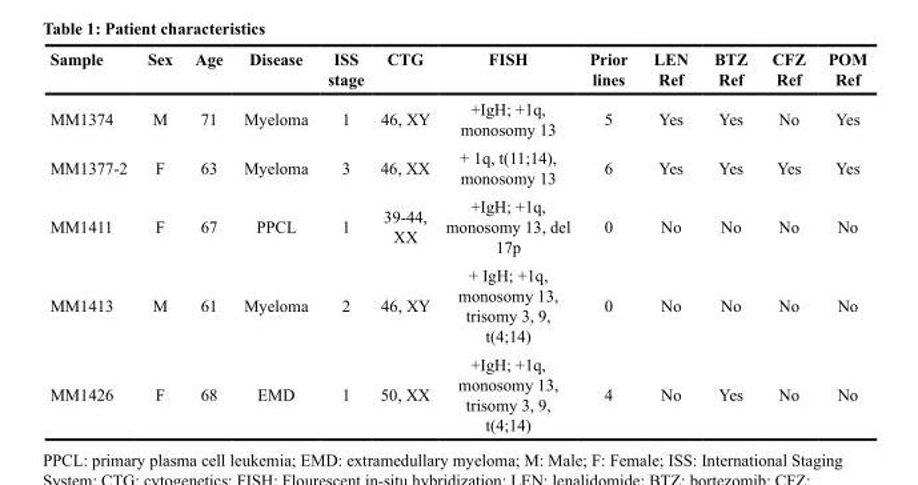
<table><thead><tr><td>Sample</td><td>Sex</td><td>Age</td><td>Disease</td><td>ISS stage</td><td>CTG</td><td>FISH</td><td>Prior lines</td><td>LEN Ref</td><td>BTZ Ref</td><td>CFZ Ref</td><td>POM Ref</td></tr></thead><tbody><tr><td>MM1374</td><td>M</td><td>71</td><td>Myeloma</td><td>1</td><td>46, XY</td><td>+IgH; +1q, monosomy 13</td><td>5</td><td>Yes</td><td>Yes</td><td>No</td><td>Yes</td></tr><tr><td>MM1377-2</td><td>F</td><td>63</td><td>Myeloma</td><td>3</td><td>46, XX</td><td>+ 1q, t(11;14), monosomy 13</td><td>6</td><td>Yes</td><td>Yes</td><td>Yes</td><td>Yes</td></tr><tr><td>MM1411</td><td>F</td><td>67</td><td>PPCL</td><td>1</td><td>39-44, XX</td><td>+IgH; +1q, monosomy 13, del 17p</td><td>0</td><td>No</td><td>No</td><td>No</td><td>No</td></tr><tr><td>MM1413</td><td>M</td><td>61</td><td>Myeloma</td><td>2</td><td>46, XY</td><td>+ IgH; +1q, monosomy 13, trisomy 3, 9, t(4;14)</td><td>0</td><td>No</td><td>No</td><td>No</td><td>No</td></tr><tr><td>MM1426</td><td>F</td><td>68</td><td>EMD</td><td>1</td><td>50, XX</td><td>+IgH; +1q, monosomy 13, trisomy 3, 9, t(4;14)</td><td>4</td><td>No</td><td>Yes</td><td>No</td><td>No</td></tr></tbody></table>